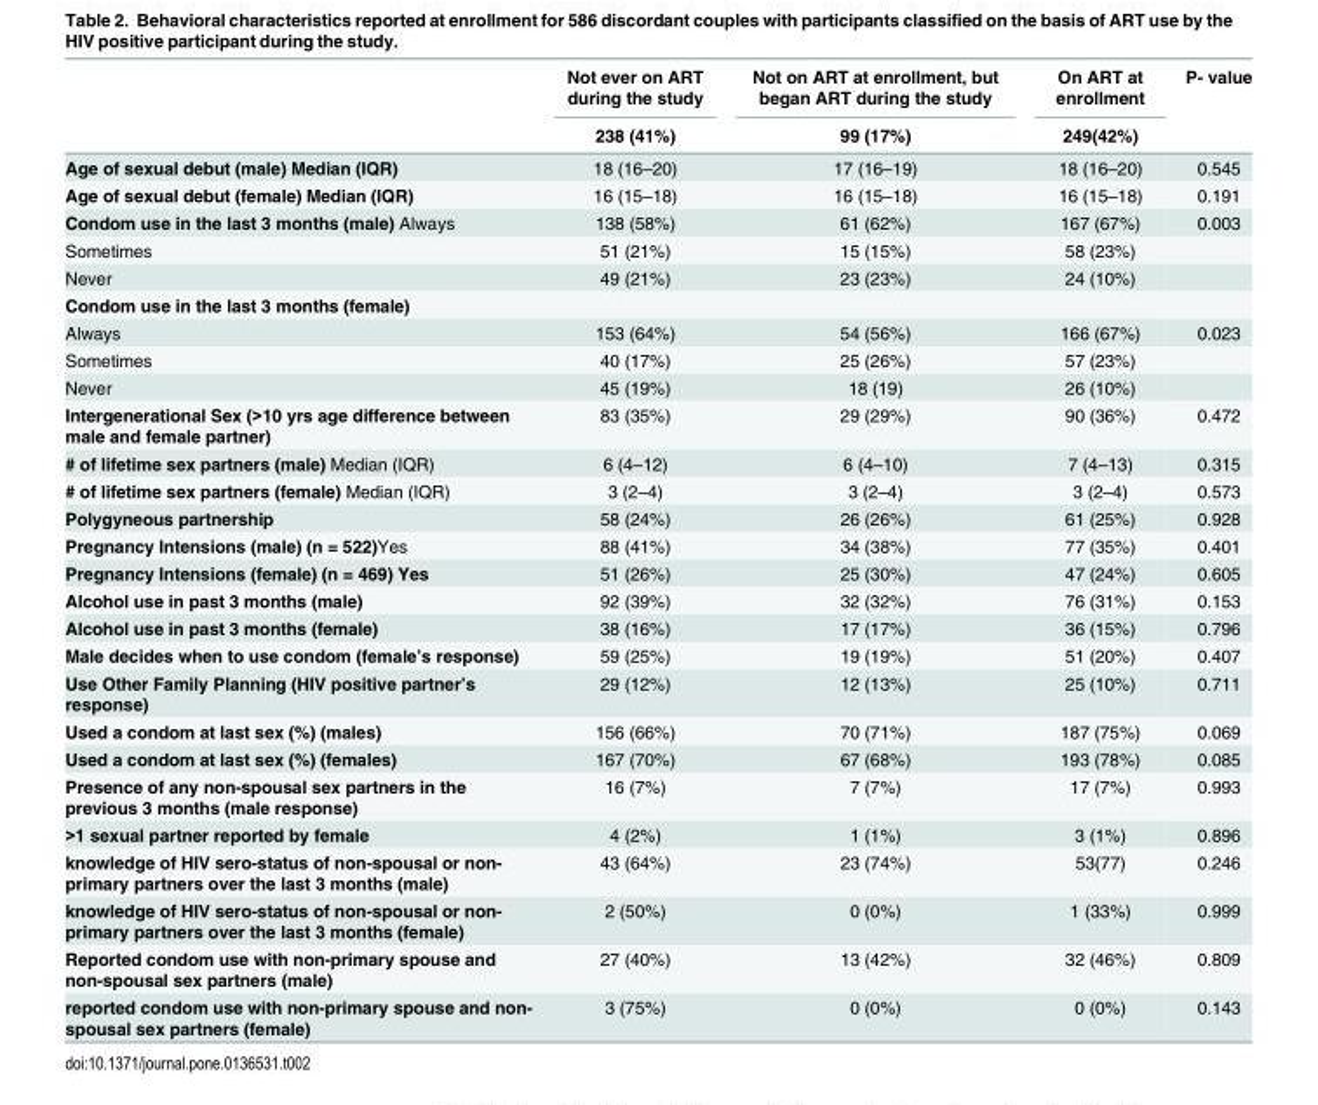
<table><thead><tr><td rowspan="2"></td><td rowspan="2">Not ever on ART during the study 238 (41%)</td><td rowspan="2">Not on ART at enrollment, but began ART during the study 99 (17%)</td><td rowspan="2">On ART at enrollment 249(42%)</td><td rowspan="2">P- value</td></tr><tr></tr></thead><tbody><tr><td>Age of sexual debut (male) Median (IQR)</td><td>18 (16–20)</td><td>17 (16–19)</td><td>18 (16–20)</td><td>0.545</td></tr><tr><td>Age of sexual debut (female) Median (IQR)</td><td>16 (15–18)</td><td>16 (15–18)</td><td>16 (15–18)</td><td>0.191</td></tr><tr><td>Condom use in the last 3 months (male) Always</td><td>138 (58%)</td><td>61 (62%)</td><td>167 (67%)</td><td>0.003</td></tr><tr><td>Sometimes</td><td>51 (21%)</td><td>15 (15%)</td><td>58 (23%)</td><td></td></tr><tr><td>Never</td><td>49 (21%)</td><td>23 (23%)</td><td>24 (10%)</td><td></td></tr><tr><td colspan="5">Condom use in the last 3 months (female)</td></tr><tr><td>Always</td><td>153 (64%)</td><td>54 (56%)</td><td>166 (67%)</td><td>0.023</td></tr><tr><td>Sometimes</td><td>40 (17%)</td><td>25 (26%)</td><td>57 (23%)</td><td></td></tr><tr><td>Never</td><td>45 (19%)</td><td>18 (19)</td><td>26 (10%)</td><td></td></tr><tr><td>Intergenerational Sex (&gt;10 yrs age difference between male and female partner)</td><td>83 (35%)</td><td>29 (29%)</td><td>90 (36%)</td><td>0.472</td></tr><tr><td># of lifetime sex partners (male) Median (IQR)</td><td>6 (4–12)</td><td>6 (4–10)</td><td>7 (4–13)</td><td>0.315</td></tr><tr><td># of lifetime sex partners (female) Median (IQR)</td><td>3 (2–4)</td><td>3 (2–4)</td><td>3 (2–4)</td><td>0.573</td></tr><tr><td>Polygyneous partnership</td><td>58 (24%)</td><td>26 (26%)</td><td>61 (25%)</td><td>0.928</td></tr><tr><td>Pregnancy Intensions (male) (n = 522)Yes</td><td>88 (41%)</td><td>34 (38%)</td><td>77 (35%)</td><td>0.401</td></tr><tr><td>Pregnancy Intensions (female) (n = 469) Yes</td><td>51 (26%)</td><td>25 (30%)</td><td>47 (24%)</td><td>0.605</td></tr><tr><td>Alcohol use in past 3 months (male)</td><td>92 (39%)</td><td>32 (32%)</td><td>76 (31%)</td><td>0.153</td></tr><tr><td>Alcohol use in past 3 months (female)</td><td>38 (16%)</td><td>17 (17%)</td><td>36 (15%)</td><td>0.796</td></tr><tr><td>Male decides when to use condom (female’s response)</td><td>59 (25%)</td><td>19 (19%)</td><td>51 (20%)</td><td>0.407</td></tr><tr><td>Use Other Family Planning (HIV positive partner’s response)</td><td>29 (12%)</td><td>12 (13%)</td><td>25 (10%)</td><td>0.711</td></tr><tr><td>Used a condom at last sex (%) (males)</td><td>156 (66%)</td><td>70 (71%)</td><td>187 (75%)</td><td>0.069</td></tr><tr><td>Used a condom at last sex (%) (females)</td><td>167 (70%)</td><td>67 (68%)</td><td>193 (78%)</td><td>0.085</td></tr><tr><td>Presence of any non-spousal sex partners in the previous 3 months (male response)</td><td>16 (7%)</td><td>7 (7%)</td><td>17 (7%)</td><td>0.993</td></tr><tr><td>&gt;1 sexual partner reported by female</td><td>4 (2%)</td><td>1 (1%)</td><td>3 (1%)</td><td>0.896</td></tr><tr><td>knowledge of HIV sero-status of non-spousal or non- primary partners over the last 3 months (male)</td><td>43 (64%)</td><td>23 (74%)</td><td>53(77)</td><td>0.246</td></tr><tr><td>knowledge of HIV sero-status of non-spousal or non- primary partners over the last 3 months (female)</td><td>2 (50%)</td><td>0 (0%)</td><td>1 (33%)</td><td>0.999</td></tr><tr><td>Reported condom use with non-primary spouse and non-spousal sex partners (male)</td><td>27 (40%)</td><td>13 (42%)</td><td>32 (46%)</td><td>0.809</td></tr><tr><td>reported condom use with non-primary spouse and non- spousal sex partners (female)</td><td>3 (75%)</td><td>0 (0%)</td><td>0 (0%)</td><td>0.143</td></tr></tbody></table>